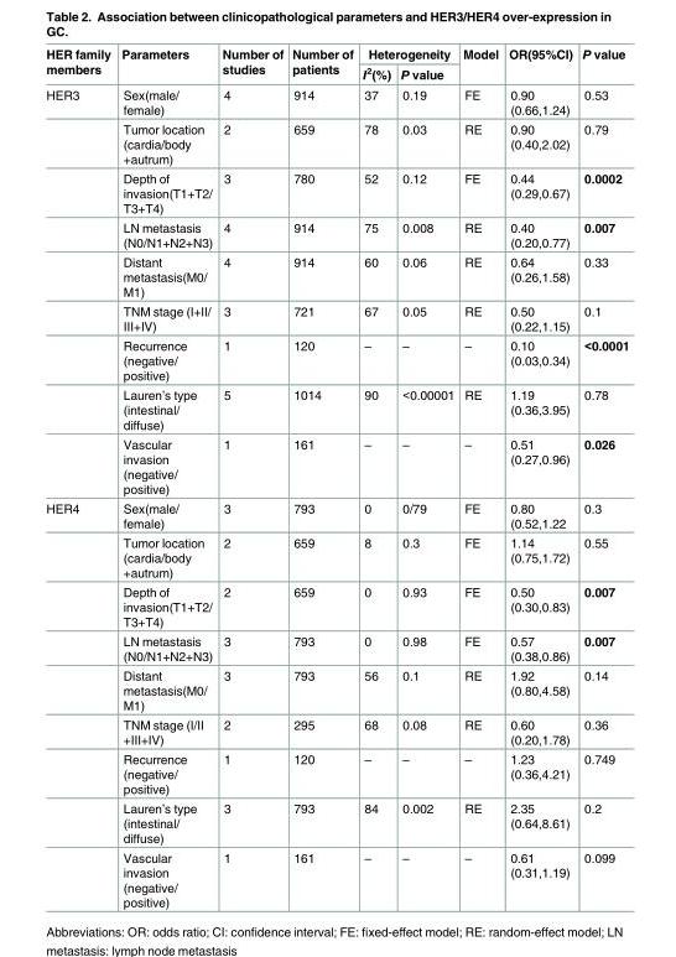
<table><thead><tr><td rowspan="2">HER family members</td><td rowspan="2">Parameters</td><td rowspan="2">Number of studies</td><td rowspan="2">Number of patients</td><td colspan="2">Heterogeneity</td><td rowspan="2">Model</td><td rowspan="2">OR(95%CI)</td><td rowspan="2">P value</td></tr><tr><td>I<sup>2</sup>(%)</td><td>P value</td></tr></thead><tbody><tr><td rowspan="9">HER3</td><td>Sex(male/ female)</td><td>4</td><td>914</td><td>37</td><td>0.19</td><td>FE</td><td>0.90 (0.66,1.24)</td><td>0.53</td></tr><tr><td>Tumor location (cardia/body +autrum)</td><td>2</td><td>659</td><td>78</td><td>0.03</td><td>RE</td><td>0.90 (0.40,2.02)</td><td>0.79</td></tr><tr><td>Depth of invasion(T1+T2/ T3+T4)</td><td>3</td><td>780</td><td>52</td><td>0.12</td><td>FE</td><td>0.44 (0.29,0.67)</td><td>0.0002</td></tr><tr><td>LN metastasis (N0/N1+N2+N3)</td><td>4</td><td>914</td><td>75</td><td>0.008</td><td>RE</td><td>0.40 (0.20,0.77)</td><td>0.007</td></tr><tr><td>Distant metastasis(M0/ M1)</td><td>4</td><td>914</td><td>60</td><td>0.06</td><td>RE</td><td>0.64 (0.26,1.58)</td><td>0.33</td></tr><tr><td>TNM stage (I+II/ III+IV)</td><td>3</td><td>721</td><td>67</td><td>0.05</td><td>RE</td><td>0.50 (0.22,1.15)</td><td>0.1</td></tr><tr><td>Recurrence (negative/ positive)</td><td>1</td><td>120</td><td>–</td><td>–</td><td>–</td><td>0.10 (0.03,0.34)</td><td>&lt;0.0001</td></tr><tr><td>Lauren’s type (intestinal/ diffuse)</td><td>5</td><td>1014</td><td>90</td><td>&lt;0.00001</td><td>RE</td><td>1.19 (0.36,3.95)</td><td>0.78</td></tr><tr><td>Vascular invasion (negative/ positive)</td><td>1</td><td>161</td><td>–</td><td>–</td><td>–</td><td>0.51 (0.27,0.96)</td><td>0.026</td></tr><tr><td rowspan="9">HER4</td><td>Sex(male/ female)</td><td>3</td><td>793</td><td>0</td><td>0/79</td><td>FE</td><td>0.80 (0.52,1.22</td><td>0.3</td></tr><tr><td>Tumor location (cardia/body +autrum)</td><td>2</td><td>659</td><td>8</td><td>0.3</td><td>FE</td><td>1.14 (0.75,1.72)</td><td>0.55</td></tr><tr><td>Depth of invasion(T1+T2/ T3+T4)</td><td>2</td><td>659</td><td>0</td><td>0.93</td><td>FE</td><td>0.50 (0.30,0.83)</td><td>0.007</td></tr><tr><td>LN metastasis (N0/N1+N2+N3)</td><td>3</td><td>793</td><td>0</td><td>0.98</td><td>FE</td><td>0.57 (0.38,0.86)</td><td>0.007</td></tr><tr><td>Distant metastasis(M0/ M1)</td><td>3</td><td>793</td><td>56</td><td>0.1</td><td>RE</td><td>1.92 (0.80,4.58)</td><td>0.14</td></tr><tr><td>TNM stage (I/II +III+IV)</td><td>2</td><td>295</td><td>68</td><td>0.08</td><td>RE</td><td>0.60 (0.20,1.78)</td><td>0.36</td></tr><tr><td>Recurrence (negative/ positive)</td><td>1</td><td>120</td><td>–</td><td>–</td><td>–</td><td>1.23 (0.36,4.21)</td><td>0.749</td></tr><tr><td>Lauren’s type (intestinal/ diffuse)</td><td>3</td><td>793</td><td>84</td><td>0.002</td><td>RE</td><td>2.35 (0.64,8.61)</td><td>0.2</td></tr><tr><td>Vascular invasion (negative/ positive)</td><td>1</td><td>161</td><td>–</td><td>–</td><td>–</td><td>0.61 (0.31,1.19)</td><td>0.099</td></tr></tbody></table>